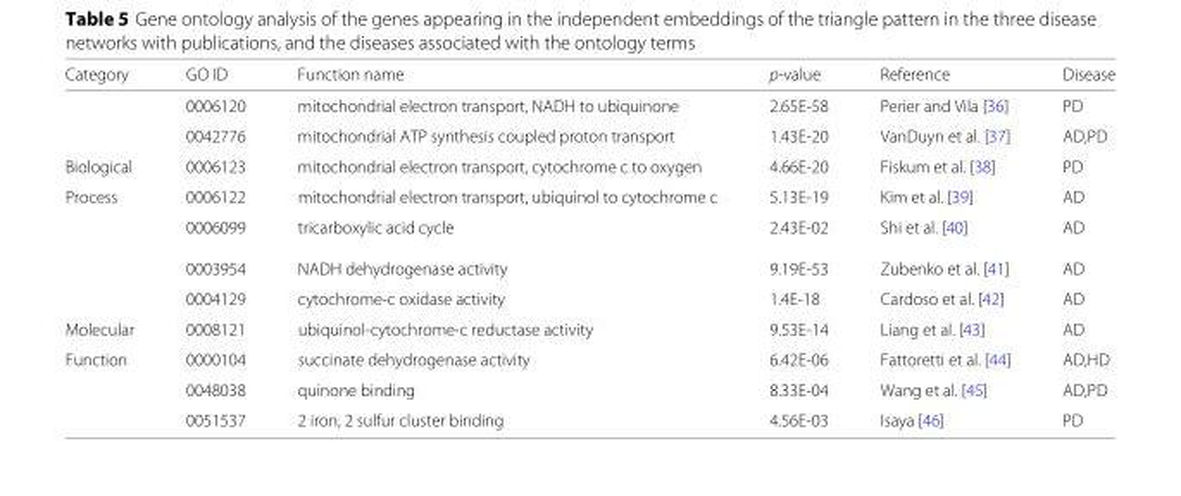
<table><thead><tr><td>Category</td><td>GO ID</td><td>Function name</td><td>p-value</td><td>Reference</td><td>Disease</td></tr></thead><tbody><tr><td></td><td>0006120</td><td>mitochondrial electron transport, NADH to ubiquinone</td><td>2.65E-58</td><td>Perier and Vila [36]</td><td>PD</td></tr><tr><td></td><td>0042776</td><td>mitochondrial ATP synthesis coupled proton transport</td><td>1.43E-20</td><td>VanDuyn et al. [37]</td><td>AD,PD</td></tr><tr><td>Biological</td><td>0006123</td><td>mitochondrial electron transport, cytochrome c to oxygen</td><td>4.66E-20</td><td>Fiskum et al. [38]</td><td>PD</td></tr><tr><td rowspan="4">Process</td><td>0006122</td><td>mitochondrial electron transport, ubiquinol to cytochrome c</td><td>5.13E-19</td><td>Kim et al. [39]</td><td>AD</td></tr><tr><td>0006099</td><td>tricarboxylic acid cycle</td><td>2.43E-02</td><td>Shi et al. [40]</td><td>AD</td></tr><tr><td>0003954</td><td>NADH dehydrogenase activity</td><td>9.19E-53</td><td>Zubenko et al. [41]</td><td>AD</td></tr><tr><td>0004129</td><td>cytochrome-c oxidase activity</td><td>1.4E-18</td><td>Cardoso et al. [42]</td><td>AD</td></tr><tr><td>Molecular</td><td>0008121</td><td>ubiquinol-cytochrome-c reductase activity</td><td>9.53E-14</td><td>Liang et al. [43]</td><td>AD</td></tr><tr><td rowspan="3">Function</td><td>0000104</td><td>succinate dehydrogenase activity</td><td>6.42E-06</td><td>Fattoretti et al. [44]</td><td>AD,HD</td></tr><tr><td>0048038</td><td>quinone binding</td><td>8.33E-04</td><td>Wang et al. [45]</td><td>AD,PD</td></tr><tr><td>0051537</td><td>2 iron, 2 sulfur cluster binding</td><td>4.56E-03</td><td>Isaya [46]</td><td>PD</td></tr></tbody></table>